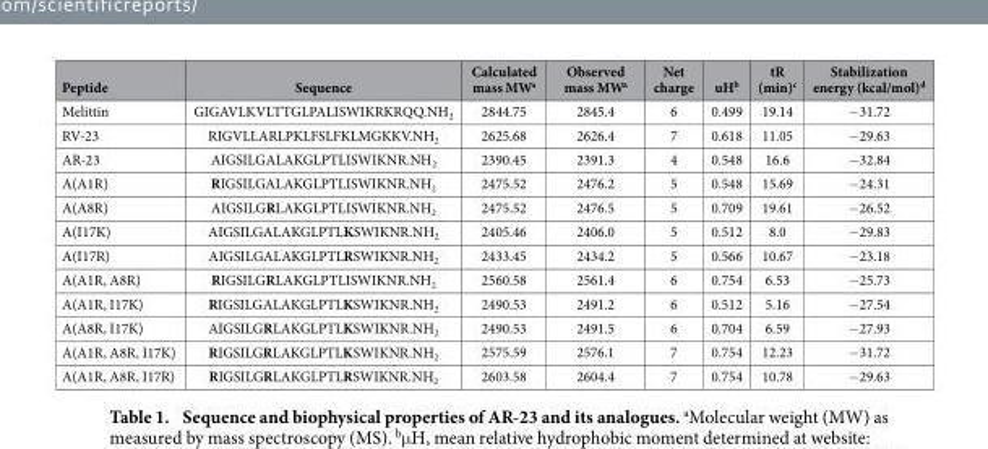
<table><thead><tr><td>Peptide</td><td>Sequence</td><td>Calculated mass MW<sup>a</sup></td><td>Observed mass MW<sup>a</sup></td><td>Net charge</td><td>uH<sup>b</sup></td><td>tR (min)<sup>c</sup></td><td>Stabilization energy (kcal/mol)<sup>d</sup></td></tr></thead><tbody><tr><td>Melittin</td><td>GIGAVLKVLTTGLPALISWIKRKRQQ.NH<sub>2</sub></td><td>2844.75</td><td>2845.4</td><td>6</td><td>0.499</td><td>19.14</td><td>− 31.72</td></tr><tr><td>RV-23</td><td>RIGVLLARLPKLFSLFKLMGKKV.NH<sub>2</sub></td><td>2625.68</td><td>2626.4</td><td>7</td><td>0.618</td><td>11.05</td><td>− 29.63</td></tr><tr><td>AR-23</td><td>AIGSILGALAKGLPTLISWIKNR.NH<sub>2</sub></td><td>2390.45</td><td>2391.3</td><td>4</td><td>0.548</td><td>16.6</td><td>− 32.84</td></tr><tr><td>A(A1R)</td><td>RIGSILGALAKGLPTLISWIKNR.NH<sub>2</sub></td><td>2475.52</td><td>2476.2</td><td>5</td><td>0.548</td><td>15.69</td><td>− 24.31</td></tr><tr><td>A(A8R)</td><td>AIGSILGRLAKGLPTLISWIKNR.NH<sub>2</sub></td><td>2475.52</td><td>2476.5</td><td>5</td><td>0.709</td><td>19.61</td><td>− 26.52</td></tr><tr><td>A(I17K)</td><td>AIGSILGALAKGLPTLKSWIKNR.NH<sub>2</sub></td><td>2405.46</td><td>2406.0</td><td>5</td><td>0.512</td><td>8.0</td><td>− 29.83</td></tr><tr><td>A(I17R)</td><td>AIGSILGALAKGLPTLRSWIKNR.NH<sub>2</sub></td><td>2433.45</td><td>2434.2</td><td>5</td><td>0.566</td><td>10.67</td><td>− 23.18</td></tr><tr><td>A(A1R, A8R)</td><td>RIGSILGRLAKGLPTLISWIKNR.NH<sub>2</sub></td><td>2560.58</td><td>2561.4</td><td>6</td><td>0.754</td><td>6.53</td><td>− 25.73</td></tr><tr><td>A(A1R, I17K)</td><td>RIGSILGALAKGLPTLKSWIKNR.NH<sub>2</sub></td><td>2490.53</td><td>2491.2</td><td>6</td><td>0.512</td><td>5.16</td><td>− 27.54</td></tr><tr><td>A(A8R, I17K)</td><td>AIGSILGRLAKGLPTLKSWIKNR.NH<sub>2</sub></td><td>2490.53</td><td>2491.5</td><td>6</td><td>0.704</td><td>6.59</td><td>− 27.93</td></tr><tr><td>A(A1R, A8R, I17K)</td><td>RIGSILGRLAKGLPTLKSWIKNR.NH<sub>2</sub></td><td>2575.59</td><td>2576.1</td><td>7</td><td>0.754</td><td>12.23</td><td>− 31.72</td></tr><tr><td>A(A1R, A8R, I17R)</td><td>RIGSILGRLAKGLPTLRSWIKNR.NH<sub>2</sub></td><td>2603.58</td><td>2604.4</td><td>7</td><td>0.754</td><td>10.78</td><td>− 29.63</td></tr></tbody></table>